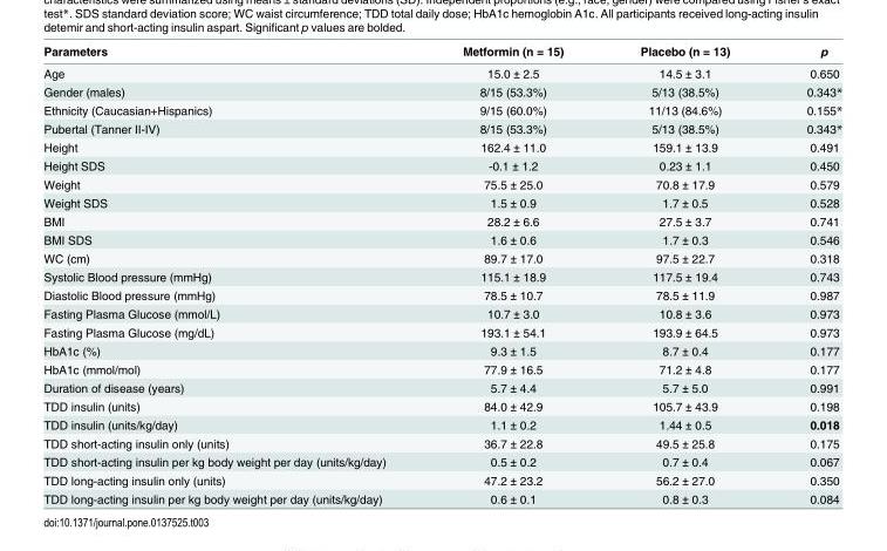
<table><thead><tr><td>Parameters</td><td>Metformin (n = 15)</td><td>Placebo (n = 13)</td><td>p</td></tr></thead><tbody><tr><td>Age</td><td>15.0 ± 2.5</td><td>14.5 ± 3.1</td><td>0.650</td></tr><tr><td>Gender (males)</td><td>8/15 (53.3%)</td><td>5/13 (38.5%)</td><td>0.343*</td></tr><tr><td>Ethnicity (Caucasian+Hispanics)</td><td>9/15 (60.0%)</td><td>11/13 (84.6%)</td><td>0.155*</td></tr><tr><td>Pubertal (Tanner II-IV)</td><td>8/15 (53.3%)</td><td>5/13 (38.5%)</td><td>0.343*</td></tr><tr><td>Height</td><td>162.4 ± 11.0</td><td>159.1 ± 13.9</td><td>0.491</td></tr><tr><td>Height SDS</td><td>-0.1 ± 1.2</td><td>0.23 ± 1.1</td><td>0.450</td></tr><tr><td>Weight</td><td>75.5 ± 25.0</td><td>70.8 ± 17.9</td><td>0.579</td></tr><tr><td>Weight SDS</td><td>1.5 ± 0.9</td><td>1.7 ± 0.5</td><td>0.528</td></tr><tr><td>BMI</td><td>28.2 ± 6.6</td><td>27.5 ± 3.7</td><td>0.741</td></tr><tr><td>BMI SDS</td><td>1.6 ± 0.6</td><td>1.7 ± 0.3</td><td>0.546</td></tr><tr><td>WC (cm)</td><td>89.7 ± 17.0</td><td>97.5 ± 22.7</td><td>0.318</td></tr><tr><td>Systolic Blood pressure (mmHg)</td><td>115.1 ± 18.9</td><td>117.5 ± 19.4</td><td>0.743</td></tr><tr><td>Diastolic Blood pressure (mmHg)</td><td>78.5 ± 10.7</td><td>78.5 ± 11.9</td><td>0.987</td></tr><tr><td>Fasting Plasma Glucose (mmol/L)</td><td>10.7 ± 3.0</td><td>10.8 ± 3.6</td><td>0.973</td></tr><tr><td>Fasting Plasma Glucose (mg/dL)</td><td>193.1 ± 54.1</td><td>193.9 ± 64.5</td><td>0.973</td></tr><tr><td>HbA1c (%)</td><td>9.3 ± 1.5</td><td>8.7 ± 0.4</td><td>0.177</td></tr><tr><td>HbA1c (mmol/mol)</td><td>77.9 ± 16.5</td><td>71.2 ± 4.8</td><td>0.177</td></tr><tr><td>Duration of disease (years)</td><td>5.7 ± 4.4</td><td>5.7 ± 5.0</td><td>0.991</td></tr><tr><td>TDD insulin (units)</td><td>84.0 ± 42.9</td><td>105.7 ± 43.9</td><td>0.198</td></tr><tr><td>TDD insulin (units/kg/day)</td><td>1.1 ± 0.2</td><td>1.44 ± 0.5</td><td>0.018</td></tr><tr><td>TDD short-acting insulin only (units)</td><td>36.7 ± 22.8</td><td>49.5 ± 25.8</td><td>0.175</td></tr><tr><td>TDD short-acting insulin per kg body weight per day (units/kg/day)</td><td>0.5 ± 0.2</td><td>0.7 ± 0.4</td><td>0.067</td></tr><tr><td>TDD long-acting insulin only (units)</td><td>47.2 ± 23.2</td><td>56.2 ± 27.0</td><td>0.350</td></tr><tr><td>TDD long-acting insulin per kg body weight per day (units/kg/day)</td><td>0.6 ± 0.1</td><td>0.8 ± 0.3</td><td>0.084</td></tr></tbody></table>